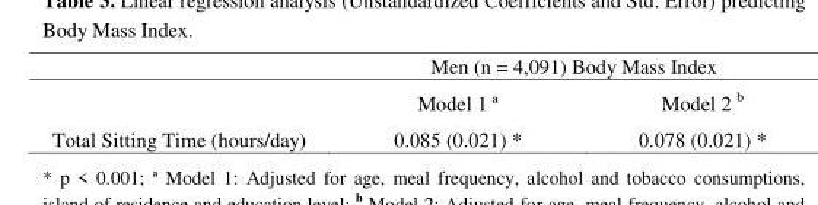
<table><thead><tr><td rowspan="2"></td><td colspan="2">Men (n = 4,091) Body Mass Index</td></tr><tr><td>Model 1 ª</td><td>Model 2 b</td></tr></thead><tbody><tr><td>Total Sitting Time (hours/day)</td><td>0.085 (0.021) *</td><td>0.078 (0.021) *</td></tr></tbody></table>